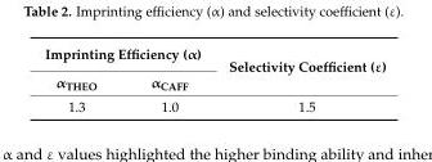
<table><thead><tr><td colspan="2">Imprinting Efficiency (α)</td><td rowspan="2">Selectivity Coefficient (ε)</td></tr><tr><td>α<sub>THEO</sub></td><td>α<sub>CAFF</sub></td></tr></thead><tbody><tr><td>1.3</td><td>1.0</td><td>1.5</td></tr></tbody></table>